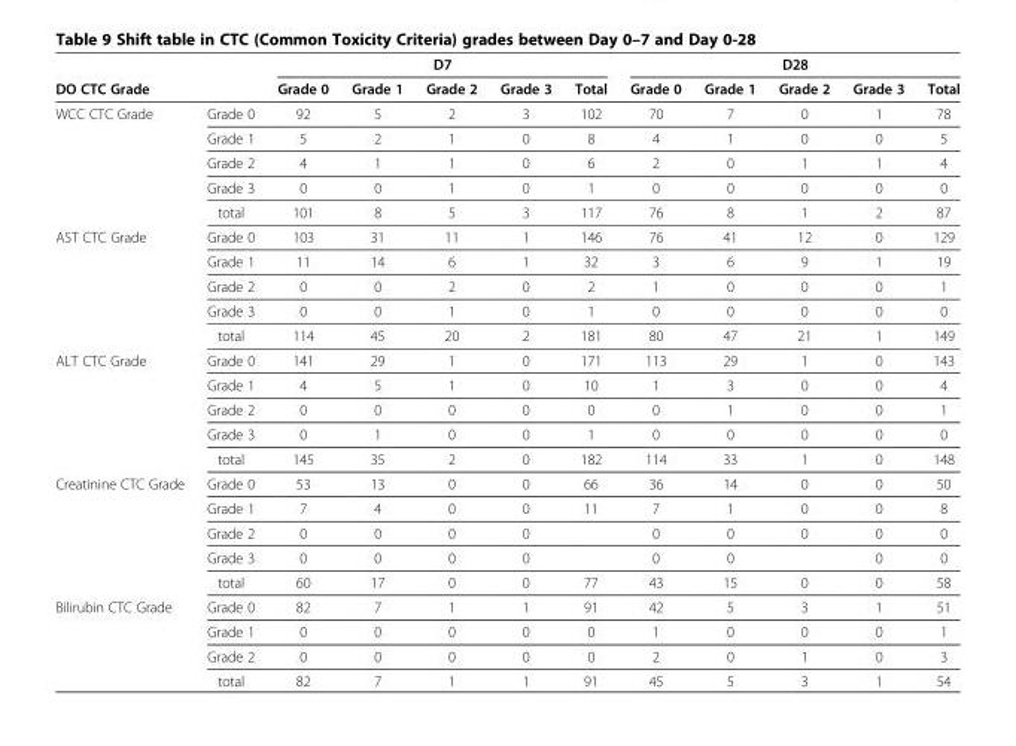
<table><thead><tr><td></td><td></td><td colspan="5">D7</td><td colspan="5">D28</td></tr><tr><td colspan="2">DO CTC Grade</td><td>Grade 0</td><td>Grade 1</td><td>Grade 2</td><td>Grade 3</td><td>Total</td><td>Grade 0</td><td>Grade 1</td><td>Grade 2</td><td>Grade 3</td><td>Total</td></tr></thead><tbody><tr><td rowspan="5">WCC CTC Grade</td><td>Grade 0</td><td>92</td><td>5</td><td>2</td><td>3</td><td>102</td><td>70</td><td>7</td><td>0</td><td>1</td><td>78</td></tr><tr><td>Grade 1</td><td>5</td><td>2</td><td>1</td><td>0</td><td>8</td><td>4</td><td>1</td><td>0</td><td>0</td><td>5</td></tr><tr><td>Grade 2</td><td>4</td><td>1</td><td>1</td><td>0</td><td>6</td><td>2</td><td>0</td><td>1</td><td>1</td><td>4</td></tr><tr><td>Grade 3</td><td>0</td><td>0</td><td>1</td><td>0</td><td>1</td><td>0</td><td>0</td><td>0</td><td>0</td><td>0</td></tr><tr><td>total</td><td>101</td><td>8</td><td>5</td><td>3</td><td>117</td><td>76</td><td>8</td><td>1</td><td>2</td><td>87</td></tr><tr><td rowspan="5">AST CTC Grade</td><td>Grade 0</td><td>103</td><td>31</td><td>11</td><td>1</td><td>146</td><td>76</td><td>41</td><td>12</td><td>0</td><td>129</td></tr><tr><td>Grade 1</td><td>11</td><td>14</td><td>6</td><td>1</td><td>32</td><td>3</td><td>6</td><td>9</td><td>1</td><td>19</td></tr><tr><td>Grade 2</td><td>0</td><td>0</td><td>2</td><td>0</td><td>2</td><td>1</td><td>0</td><td>0</td><td>0</td><td>1</td></tr><tr><td>Grade 3</td><td>0</td><td>0</td><td>1</td><td>0</td><td>1</td><td>0</td><td>0</td><td>0</td><td>0</td><td>0</td></tr><tr><td>total</td><td>114</td><td>45</td><td>20</td><td>2</td><td>181</td><td>80</td><td>47</td><td>21</td><td>1</td><td>149</td></tr><tr><td rowspan="5">ALT CTC Grade</td><td>Grade 0</td><td>141</td><td>29</td><td>1</td><td>0</td><td>171</td><td>113</td><td>29</td><td>1</td><td>0</td><td>143</td></tr><tr><td>Grade 1</td><td>4</td><td>5</td><td>1</td><td>0</td><td>10</td><td>1</td><td>3</td><td>0</td><td>0</td><td>4</td></tr><tr><td>Grade 2</td><td>0</td><td>0</td><td>0</td><td>0</td><td>0</td><td>0</td><td>1</td><td>0</td><td>0</td><td>1</td></tr><tr><td>Grade 3</td><td>0</td><td>1</td><td>0</td><td>0</td><td>1</td><td>0</td><td>0</td><td>0</td><td>0</td><td>0</td></tr><tr><td>total</td><td>145</td><td>35</td><td>2</td><td>0</td><td>182</td><td>114</td><td>33</td><td>1</td><td>0</td><td>148</td></tr><tr><td rowspan="5">Creatinine CTC Grade</td><td>Grade 0</td><td>53</td><td>13</td><td>0</td><td>0</td><td>66</td><td>36</td><td>14</td><td>0</td><td>0</td><td>50</td></tr><tr><td>Grade 1</td><td>7</td><td>4</td><td>0</td><td>0</td><td>11</td><td>7</td><td>1</td><td>0</td><td>0</td><td>8</td></tr><tr><td>Grade 2</td><td>0</td><td>0</td><td>0</td><td>0</td><td></td><td>0</td><td>0</td><td>0</td><td>0</td><td>0</td></tr><tr><td>Grade 3</td><td>0</td><td>0</td><td>0</td><td>0</td><td></td><td>0</td><td>0</td><td></td><td>0</td><td>0</td></tr><tr><td>total</td><td>60</td><td>17</td><td>0</td><td>0</td><td>77</td><td>43</td><td>15</td><td>0</td><td>0</td><td>58</td></tr><tr><td rowspan="4">Bilirubin CTC Grade</td><td>Grade 0</td><td>82</td><td>7</td><td>1</td><td>1</td><td>91</td><td>42</td><td>5</td><td>3</td><td>1</td><td>51</td></tr><tr><td>Grade 1</td><td>0</td><td>0</td><td>0</td><td>0</td><td>0</td><td>1</td><td>0</td><td>0</td><td>0</td><td>1</td></tr><tr><td>Grade 2</td><td>0</td><td>0</td><td>0</td><td>0</td><td>0</td><td>2</td><td>0</td><td>1</td><td>0</td><td>3</td></tr><tr><td>total</td><td>82</td><td>7</td><td>1</td><td>1</td><td>91</td><td>45</td><td>5</td><td>3</td><td>1</td><td>54</td></tr></tbody></table>